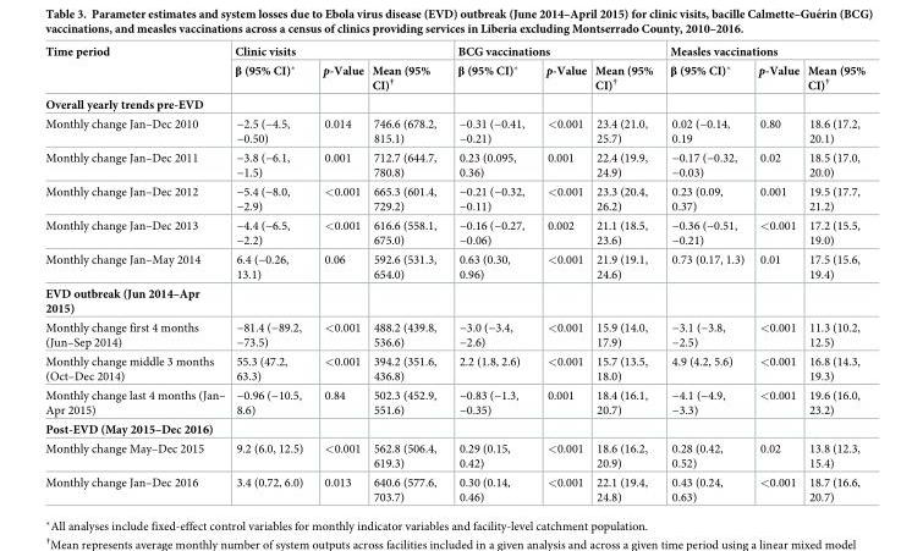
<table><thead><tr><td rowspan="2">Time period</td><td colspan="3">Clinic visits</td><td colspan="3">BCG vaccinations</td><td colspan="3">Measles vaccinations</td></tr><tr><td>β (95% CI)*</td><td>p-Value</td><td>Mean (95% CI)<sup>†</sup></td><td>β (95% CI)*</td><td>p-Value</td><td>Mean (95% CI)<sup>†</sup></td><td>β (95% CI)*</td><td>p-Value</td><td>Mean (95% CI)<sup>†</sup></td></tr></thead><tbody><tr><td colspan="10">Overall yearly trends pre-EVD</td></tr><tr><td>Monthly change Jan–Dec 2010</td><td>−2.5 (−4.5, −0.50)</td><td>0.014</td><td>746.6 (678.2, 815.1)</td><td>−0.31 (−0.41, −0.21)</td><td>&lt;0.001</td><td>23.4 (21.0, 25.7)</td><td>0.02 (−0.14, 0.19</td><td>0.80</td><td>18.6 (17.2, 20.1)</td></tr><tr><td>Monthly change Jan–Dec 2011</td><td>−3.8 (−6.1, −1.5)</td><td>0.001</td><td>712.7 (644.7, 780.8)</td><td>0.23 (0.095, 0.36)</td><td>0.001</td><td>22.4 (19.9, 24.9)</td><td>−0.17 (−0.32, −0.03)</td><td>0.02</td><td>18.5 (17.0, 20.0)</td></tr><tr><td>Monthly change Jan–Dec 2012</td><td>−5.4 (−8.0, −2.9)</td><td>&lt;0.001</td><td>665.3 (601.4, 729.2)</td><td>−0.21 (−0.32, −0.11)</td><td>&lt;0.001</td><td>23.3 (20.4, 26.2)</td><td>0.23 (0.09, 0.37)</td><td>0.001</td><td>19.5 (17.7, 21.2)</td></tr><tr><td>Monthly change Jan–Dec 2013</td><td>−4.4 (−6.5, −2.2)</td><td>&lt;0.001</td><td>616.6 (558.1, 675.0)</td><td>−0.16 (−0.27, −0.06)</td><td>0.002</td><td>21.1 (18.5, 23.6)</td><td>−0.36 (−0.51, −0.21)</td><td>&lt;0.001</td><td>17.2 (15.5, 19.0)</td></tr><tr><td>Monthly change Jan–May 2014</td><td>6.4 (−0.26, 13.1)</td><td>0.06</td><td>592.6 (531.3, 654.0)</td><td>0.63 (0.30, 0.96)</td><td>&lt;0.001</td><td>21.9 (19.1, 24.6)</td><td>0.73 (0.17, 1.3)</td><td>0.01</td><td>17.5 (15.6, 19.4)</td></tr><tr><td colspan="10">EVD outbreak (Jun 2014–Apr 2015)</td></tr><tr><td>Monthly change first 4 months (Jun–Sep 2014)</td><td>−81.4 (−89.2, −73.5)</td><td>&lt;0.001</td><td>488.2 (439.8, 536.6)</td><td>−3.0 (−3.4, −2.6)</td><td>&lt;0.001</td><td>15.9 (14.0, 17.9)</td><td>−3.1 (−3.8, −2.5)</td><td>&lt;0.001</td><td>11.3 (10.2, 12.5)</td></tr><tr><td>Monthly change middle 3 months (Oct–Dec 2014)</td><td>55.3 (47.2, 63.3)</td><td>&lt;0.001</td><td>394.2 (351.6, 436.8)</td><td>2.2 (1.8, 2.6)</td><td>&lt;0.001</td><td>15.7 (13.5, 18.0)</td><td>4.9 (4.2, 5.6)</td><td>&lt;0.001</td><td>16.8 (14.3, 19.3)</td></tr><tr><td>Monthly change last 4 months (Jan– Apr 2015)</td><td>−0.96 (−10.5, 8.6)</td><td>0.84</td><td>502.3 (452.9, 551.6)</td><td>−0.83 (−1.3, −0.35)</td><td>0.001</td><td>18.4 (16.1, 20.7)</td><td>−4.1 (−4.9, −3.3)</td><td>&lt;0.001</td><td>19.6 (16.0, 23.2)</td></tr><tr><td colspan="10">Post-EVD (May 2015–Dec 2016)</td></tr><tr><td>Monthly change May–Dec 2015</td><td>9.2 (6.0, 12.5)</td><td>&lt;0.001</td><td>562.8 (506.4, 619.3)</td><td>0.29 (0.15, 0.42)</td><td>&lt;0.001</td><td>18.6 (16.2, 20.9)</td><td>0.28 (0.42, 0.52)</td><td>0.02</td><td>13.8 (12.3, 15.4)</td></tr><tr><td>Monthly change Jan–Dec 2016</td><td>3.4 (0.72, 6.0)</td><td>0.013</td><td>640.6 (577.6, 703.7)</td><td>0.30 (0.14, 0.46)</td><td>&lt;0.001</td><td>22.1 (19.4, 24.8)</td><td>0.43 (0.24, 0.63)</td><td>&lt;0.001</td><td>18.7 (16.6, 20.7)</td></tr></tbody></table>